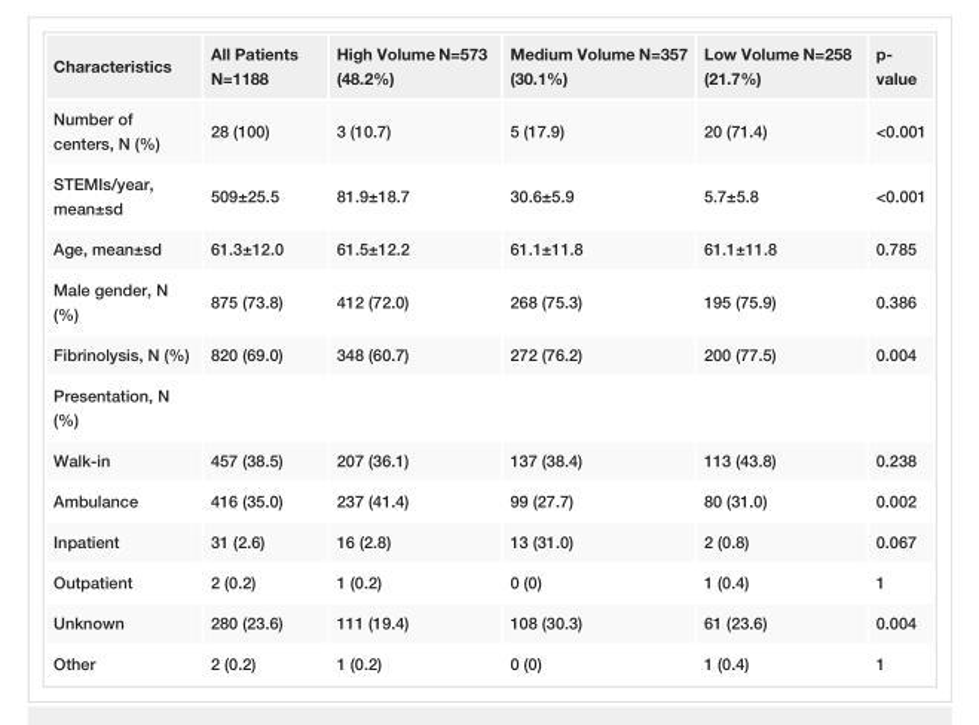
<table><tbody><tr><td>Characteristics</td><td>All Patients N=1188</td><td>High Volume N=573 (48.2%)</td><td>Medium Volume N=357 (30.1%)</td><td>Low Volume N=258 (21.7%)</td><td>p- value</td></tr><tr><td>Number of centers, N (%)</td><td>28 (100)</td><td>3 (10.7)</td><td>5 (17.9)</td><td>20 (71.4)</td><td>&lt;0.001</td></tr><tr><td>STEMIs/year, mean±sd</td><td>509±25.5</td><td>81.9±18.7</td><td>30.6±5.9</td><td>5.7±5.8</td><td>&lt;0.001</td></tr><tr><td>Age, mean±sd</td><td>61.3±12.0</td><td>61.5±12.2</td><td>61.1±11.8</td><td>61.1±11.8</td><td>0.785</td></tr><tr><td>Male gender, N (%)</td><td>875 (73.8)</td><td>412 (72.0)</td><td>268 (75.3)</td><td>195 (75.9)</td><td>0.386</td></tr><tr><td>Fibrinolysis, N (%)</td><td>820 (69.0)</td><td>348 (60.7)</td><td>272 (76.2)</td><td>200 (77.5)</td><td>0.004</td></tr><tr><td colspan="6">Presentation, N (%)</td></tr><tr><td>Walk-in</td><td>457 (38.5)</td><td>207 (36.1)</td><td>137 (38.4)</td><td>113 (43.8)</td><td>0.238</td></tr><tr><td>Ambulance</td><td>416 (35.0)</td><td>237 (41.4)</td><td>99 (27.7)</td><td>80 (31.0)</td><td>0.002</td></tr><tr><td>Inpatient</td><td>31 (2.6)</td><td>16 (2.8)</td><td>13 (31.0)</td><td>2 (0.8)</td><td>0.067</td></tr><tr><td>Outpatient</td><td>2 (0.2)</td><td>1 (0.2)</td><td>0 (0)</td><td>1 (0.4)</td><td>1</td></tr><tr><td>Unknown</td><td>280 (23.6)</td><td>111 (19.4)</td><td>108 (30.3)</td><td>61 (23.6)</td><td>0.004</td></tr><tr><td>Other</td><td>2 (0.2)</td><td>1 (0.2)</td><td>0 (0)</td><td>1 (0.4)</td><td>1</td></tr></tbody></table>